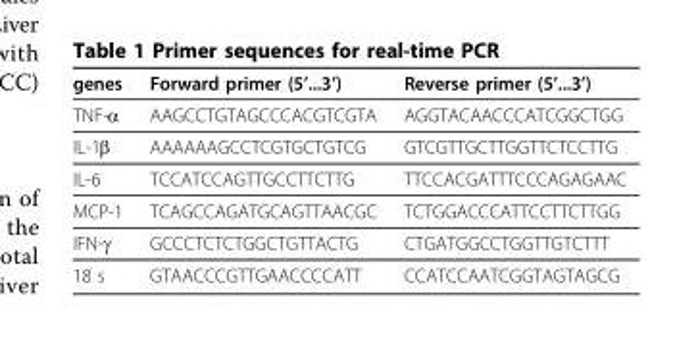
<table><thead><tr><td>genes</td><td>Forward primer (5’...3’)</td><td>Reverse primer (5’...3’)</td></tr></thead><tbody><tr><td>TNF-α</td><td>AAGCCTGTAGCCCACGTCGTA</td><td>AGGTACAACCCATCGGCTGG</td></tr><tr><td>IL-1β</td><td>AAAAAAGCCTCGTGCTGTCG</td><td>GTCGTTGCTTGGTTCTCCTTG</td></tr><tr><td>IL-6</td><td>TCCATCCAGTTGCCTTCTTG</td><td>TTCCACGATTTCCCAGAGAAC</td></tr><tr><td>MCP-1</td><td>TCAGCCAGATGCAGTTAACGC</td><td>TCTGGACCCATTCCTTCTTGG</td></tr><tr><td>IFN-γ</td><td>GCCCTCTCTGGCTGTTACTG</td><td>CTGATGGCCTGGTTGTCTTT</td></tr><tr><td>18 s</td><td>GTAACCCGTTGAACCCCATT</td><td>CCATCCAATCGGTAGTAGCG</td></tr></tbody></table>